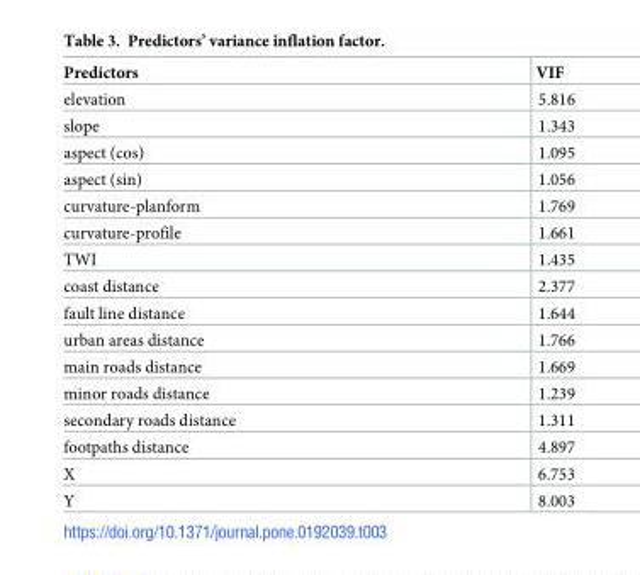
<table><thead><tr><td>Predictors</td><td>VIF</td></tr></thead><tbody><tr><td>elevation</td><td>5.816</td></tr><tr><td>slope</td><td>1.343</td></tr><tr><td>aspect (cos)</td><td>1.095</td></tr><tr><td>aspect (sin)</td><td>1.056</td></tr><tr><td>curvature-planform</td><td>1.769</td></tr><tr><td>curvature-profile</td><td>1.661</td></tr><tr><td>TWI</td><td>1.435</td></tr><tr><td>coast distance</td><td>2.377</td></tr><tr><td>fault line distance</td><td>1.644</td></tr><tr><td>urban areas distance</td><td>1.766</td></tr><tr><td>main roads distance</td><td>1.669</td></tr><tr><td>minor roads distance</td><td>1.239</td></tr><tr><td>secondary roads distance</td><td>1.311</td></tr><tr><td>footpaths distance</td><td>4.897</td></tr><tr><td>X</td><td>6.753</td></tr><tr><td>Y</td><td>8.003</td></tr></tbody></table>